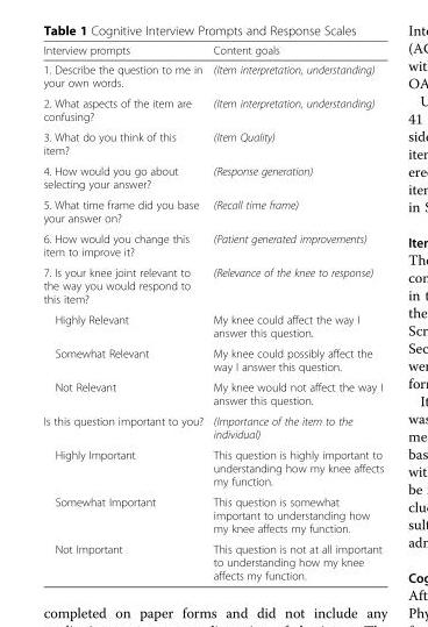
<table><thead><tr><td>Interview prompts</td><td>Content goals</td></tr></thead><tbody><tr><td>1. Describe the question to me in your own words.</td><td>(Item interpretation, understanding)</td></tr><tr><td>2. What aspects of the item are confusing?</td><td>(Item interpretation, understanding)</td></tr><tr><td>3. What do you think of this item?</td><td>(Item Quality)</td></tr><tr><td>4. How would you go about selecting your answer?</td><td>(Response generation)</td></tr><tr><td>5. What time frame did you base your answer on?</td><td>(Recall time frame)</td></tr><tr><td>6. How would you change this item to improve it?</td><td>(Patient generated improvements)</td></tr><tr><td>7. Is your knee joint relevant to the way you would respond to this item?</td><td>(Relevance of the knee to response)</td></tr><tr><td>Highly Relevant</td><td>My knee could affect the way I answer this question.</td></tr><tr><td>Somewhat Relevant</td><td>My knee could possibly affect the way I answer this question.</td></tr><tr><td>Not Relevant</td><td>My knee would not affect the way I answer this question.</td></tr><tr><td>Is this question important to you?</td><td>(Importance of the item to the individual)</td></tr><tr><td>Highly Important</td><td>This question is highly important to understanding how my knee affects my function.</td></tr><tr><td>Somewhat Important</td><td>This question is somewhat important to understanding how my knee affects my function.</td></tr><tr><td>Not Important</td><td>This question is not at all important to understanding how my knee affects my function.</td></tr></tbody></table>